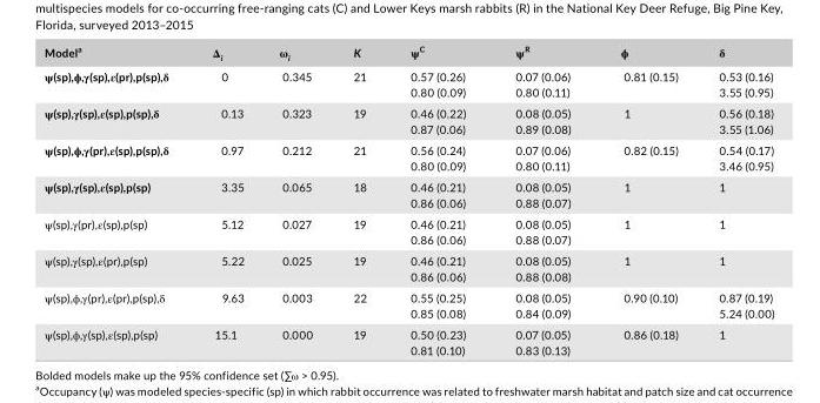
<table><thead><tr><td>Model<sup>a</sup></td><td>Δ<sub>i</sub></td><td>ω<sub>i</sub></td><td>K</td><td>ψ<sup>C</sup></td><td>ψ<sup>R</sup></td><td>ϕ</td><td>δ</td></tr></thead><tbody><tr><td>ψ(sp),ϕ,γ(sp),ε(pr),p(sp),δ</td><td>0</td><td>0.345</td><td>21</td><td>0.57 (0.26) 0.80 (0.09)</td><td>0.07 (0.06) 0.80 (0.11)</td><td>0.81 (0.15)</td><td>0.53 (0.16) 3.55 (0.95)</td></tr><tr><td>ψ(sp),γ(sp),ε(sp),p(sp),δ</td><td>0.13</td><td>0.323</td><td>19</td><td>0.46 (0.22) 0.87 (0.06)</td><td>0.08 (0.05) 0.89 (0.08)</td><td>1</td><td>0.56 (0.18) 3.55 (1.06)</td></tr><tr><td>ψ(sp),ϕ,γ(pr),ε(sp),p(sp),δ</td><td>0.97</td><td>0.212</td><td>21</td><td>0.56 (0.24) 0.80 (0.09)</td><td>0.07 (0.06) 0.80 (0.11)</td><td>0.82 (0.15)</td><td>0.54 (0.17) 3.46 (0.95)</td></tr><tr><td>ψ(sp),γ(sp),ε(sp),p(sp)</td><td>3.35</td><td>0.065</td><td>18</td><td>0.46 (0.21) 0.86 (0.06)</td><td>0.08 (0.05) 0.88 (0.07)</td><td>1</td><td>1</td></tr><tr><td>ψ(sp),γ(pr),ε(sp),p(sp)</td><td>5.12</td><td>0.027</td><td>19</td><td>0.46 (0.21) 0.86 (0.06)</td><td>0.08 (0.05) 0.88 (0.07)</td><td>1</td><td>1</td></tr><tr><td>ψ(sp),γ(sp),ε(pr),p(sp)</td><td>5.22</td><td>0.025</td><td>19</td><td>0.46 (0.21) 0.86 (0.06)</td><td>0.08 (0.05) 0.88 (0.08)</td><td>1</td><td>1</td></tr><tr><td>ψ(sp),ϕ,γ(pr),ε(pr),p(sp),δ</td><td>9.63</td><td>0.003</td><td>22</td><td>0.55 (0.25) 0.85 (0.08)</td><td>0.08 (0.05) 0.84 (0.09)</td><td>0.90 (0.10)</td><td>0.87 (0.19) 5.24 (0.00)</td></tr><tr><td>ψ(sp),ϕ,γ(sp),ε(sp),p(sp)</td><td>15.1</td><td>0.000</td><td>19</td><td>0.50 (0.23) 0.81 (0.10)</td><td>0.07 (0.05) 0.83 (0.13)</td><td>0.86 (0.18)</td><td>1</td></tr></tbody></table>